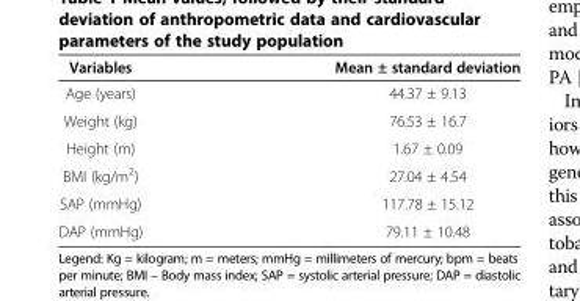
<table><thead><tr><td>Variables</td><td>Mean ± standard deviation</td></tr></thead><tbody><tr><td>Age (years)</td><td>44.37 ± 9.13</td></tr><tr><td>Weight (kg)</td><td>76.53 ± 16.7</td></tr><tr><td>Height (m)</td><td>1.67 ± 0.09</td></tr><tr><td>BMI (kg/m<sup>2</sup>)</td><td>27.04 ± 4.54</td></tr><tr><td>SAP (mmHg)</td><td>117.78 ± 15.12</td></tr><tr><td>DAP (mmHg)</td><td>79.11 ± 10.48</td></tr></tbody></table>